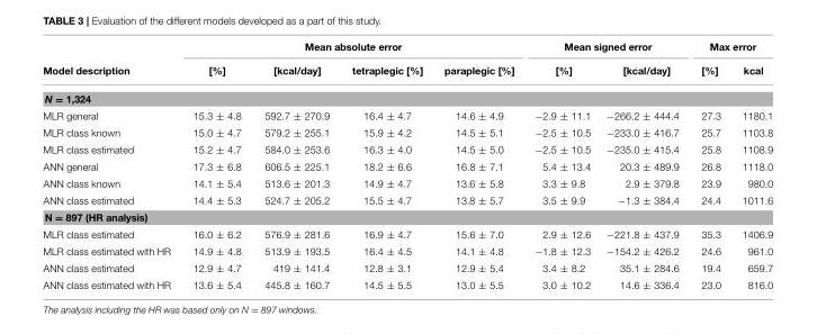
<table><thead><tr><td rowspan="2">Model description</td><td colspan="4">Mean absolute error</td><td colspan="2">Mean signed error</td><td colspan="2">Max error</td></tr><tr><td>[%]</td><td>[kcal/day]</td><td>tetraplegic [%]</td><td>paraplegic [%]</td><td>[%]</td><td>[kcal/day]</td><td>[%]</td><td>kcal</td></tr></thead><tbody><tr><td colspan="9">N = 1,324</td></tr><tr><td>MLR general</td><td>15.3 ± 4.8</td><td>592.7 ± 270.9</td><td>16.4 ± 4.7</td><td>14.6 ± 4.9</td><td>−2.9 ± 11.1</td><td>−266.2 ± 444.4</td><td>27.3</td><td>1180.1</td></tr><tr><td>MLR class known</td><td>15.0 ± 4.7</td><td>579.2 ± 255.1</td><td>15.9 ± 4.2</td><td>14.5 ± 5.1</td><td>−2.5 ± 10.5</td><td>−233.0 ± 416.7</td><td>25.7</td><td>1103.8</td></tr><tr><td>MLR class estimated</td><td>15.2 ± 4.7</td><td>584.0 ± 253.6</td><td>16.3 ± 4.0</td><td>14.5 ± 5.0</td><td>−2.5 ± 10.5</td><td>−235.0 ± 415.4</td><td>25.8</td><td>1108.9</td></tr><tr><td>ANN general</td><td>17.3 ± 6.8</td><td>606.5 ± 225.1</td><td>18.2 ± 6.6</td><td>16.8 ± 7.1</td><td>5.4 ± 13.4</td><td>20.3 ± 489.9</td><td>26.8</td><td>1118.0</td></tr><tr><td>ANN class known</td><td>14.1 ± 5.4</td><td>513.6 ± 201.3</td><td>14.9 ± 4.7</td><td>13.6 ± 5.8</td><td>3.3 ± 9.8</td><td>2.9 ± 379.8</td><td>23.9</td><td>980.0</td></tr><tr><td>ANN class estimated</td><td>14.4 ± 5.3</td><td>524.7 ± 205.2</td><td>15.5 ± 4.7</td><td>13.8 ± 5.7</td><td>3.5 ± 9.9</td><td>−1.3 ± 384.4</td><td>24.4</td><td>1011.6</td></tr><tr><td colspan="9">N = 897 (HR analysis)</td></tr><tr><td>MLR class estimated</td><td>16.0 ± 6.2</td><td>576.9 ± 281.6</td><td>16.9 ± 4.7</td><td>15.6 ± 7.0</td><td>2.9 ± 12.6</td><td>−221.8 ± 437.9</td><td>35.3</td><td>1406.9</td></tr><tr><td>MLR class estimated with HR</td><td>14.9 ± 4.8</td><td>513.9 ± 193.5</td><td>16.4 ± 4.5</td><td>14.1 ± 4.8</td><td>−1.8 ± 12.3</td><td>−154.2 ± 426.2</td><td>24.6</td><td>961.0</td></tr><tr><td>ANN class estimated</td><td>12.9 ± 4.7</td><td>419 ± 141.4</td><td>12.8 ± 3.1</td><td>12.9 ± 5.4</td><td>3.4 ± 8.2</td><td>35.1 ± 284.6</td><td>19.4</td><td>659.7</td></tr><tr><td>ANN class estimated with HR</td><td>13.6 ± 5.4</td><td>445.8 ± 160.7</td><td>14.5 ± 5.5</td><td>13.0 ± 5.5</td><td>3.0 ± 10.2</td><td>14.6 ± 336.4</td><td>23.0</td><td>816.0</td></tr></tbody></table>